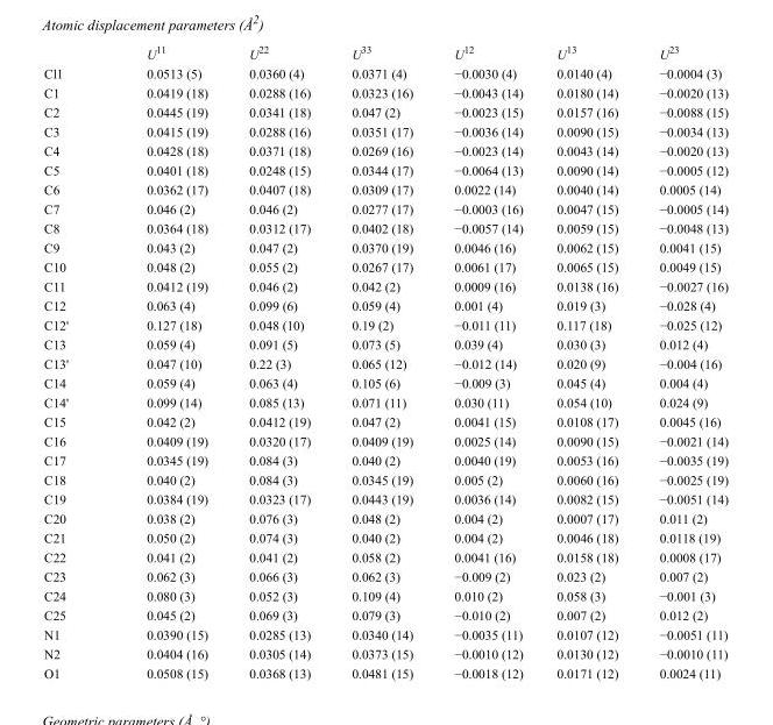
<table><thead><tr><td></td><td>U<sup>11</sup></td><td>U<sup>22</sup></td><td>U<sup>33</sup></td><td>U<sup>12</sup></td><td>U<sup>13</sup></td><td>U<sup>23</sup></td></tr></thead><tbody><tr><td>Cl1</td><td>0.0513 (5)</td><td>0.0360 (4)</td><td>0.0371 (4)</td><td>−0.0030 (4)</td><td>0.0140 (4)</td><td>−0.0004 (3)</td></tr><tr><td>C1</td><td>0.0419 (18)</td><td>0.0288 (16)</td><td>0.0323 (16)</td><td>−0.0043 (14)</td><td>0.0180 (14)</td><td>−0.0020 (13)</td></tr><tr><td>C2</td><td>0.0445 (19)</td><td>0.0341 (18)</td><td>0.047 (2)</td><td>−0.0023 (15)</td><td>0.0157 (16)</td><td>−0.0088 (15)</td></tr><tr><td>C3</td><td>0.0415 (19)</td><td>0.0288 (16)</td><td>0.0351 (17)</td><td>−0.0036 (14)</td><td>0.0090 (15)</td><td>−0.0034 (13)</td></tr><tr><td>C4</td><td>0.0428 (18)</td><td>0.0371 (18)</td><td>0.0269 (16)</td><td>−0.0023 (14)</td><td>0.0043 (14)</td><td>−0.0020 (13)</td></tr><tr><td>C5</td><td>0.0401 (18)</td><td>0.0248 (15)</td><td>0.0344 (17)</td><td>−0.0064 (13)</td><td>0.0090 (14)</td><td>−0.0005 (12)</td></tr><tr><td>C6</td><td>0.0362 (17)</td><td>0.0407 (18)</td><td>0.0309 (17)</td><td>0.0022 (14)</td><td>0.0040 (14)</td><td>0.0005 (14)</td></tr><tr><td>C7</td><td>0.046 (2)</td><td>0.046 (2)</td><td>0.0277 (17)</td><td>−0.0003 (16)</td><td>0.0047 (15)</td><td>−0.0005 (14)</td></tr><tr><td>C8</td><td>0.0364 (18)</td><td>0.0312 (17)</td><td>0.0402 (18)</td><td>−0.0057 (14)</td><td>0.0059 (15)</td><td>−0.0048 (13)</td></tr><tr><td>C9</td><td>0.043 (2)</td><td>0.047 (2)</td><td>0.0370 (19)</td><td>0.0046 (16)</td><td>0.0062 (15)</td><td>0.0041 (15)</td></tr><tr><td>C10</td><td>0.048 (2)</td><td>0.055 (2)</td><td>0.0267 (17)</td><td>0.0061 (17)</td><td>0.0065 (15)</td><td>0.0049 (15)</td></tr><tr><td>C11</td><td>0.0412 (19)</td><td>0.046 (2)</td><td>0.042 (2)</td><td>0.0009 (16)</td><td>0.0138 (16)</td><td>−0.0027 (16)</td></tr><tr><td>C12</td><td>0.063 (4)</td><td>0.099 (6)</td><td>0.059 (4)</td><td>0.001 (4)</td><td>0.019 (3)</td><td>−0.028 (4)</td></tr><tr><td>C12&#x27;</td><td>0.127 (18)</td><td>0.048 (10)</td><td>0.19 (2)</td><td>−0.011 (11)</td><td>0.117 (18)</td><td>−0.025 (12)</td></tr><tr><td>C13</td><td>0.059 (4)</td><td>0.091 (5)</td><td>0.073 (5)</td><td>0.039 (4)</td><td>0.030 (3)</td><td>0.012 (4)</td></tr><tr><td>C13&#x27;</td><td>0.047 (10)</td><td>0.22 (3)</td><td>0.065 (12)</td><td>−0.012 (14)</td><td>0.020 (9)</td><td>−0.004 (16)</td></tr><tr><td>C14</td><td>0.059 (4)</td><td>0.063 (4)</td><td>0.105 (6)</td><td>−0.009 (3)</td><td>0.045 (4)</td><td>0.004 (4)</td></tr><tr><td>C14&#x27;</td><td>0.099 (14)</td><td>0.085 (13)</td><td>0.071 (11)</td><td>0.030 (11)</td><td>0.054 (10)</td><td>0.024 (9)</td></tr><tr><td>C15</td><td>0.042 (2)</td><td>0.0412 (19)</td><td>0.047 (2)</td><td>0.0041 (15)</td><td>0.0108 (17)</td><td>0.0045 (16)</td></tr><tr><td>C16</td><td>0.0409 (19)</td><td>0.0320 (17)</td><td>0.0409 (19)</td><td>0.0025 (14)</td><td>0.0090 (15)</td><td>−0.0021 (14)</td></tr><tr><td>C17</td><td>0.0345 (19)</td><td>0.084 (3)</td><td>0.040 (2)</td><td>0.0040 (19)</td><td>0.0053 (16)</td><td>−0.0035 (19)</td></tr><tr><td>C18</td><td>0.040 (2)</td><td>0.084 (3)</td><td>0.0345 (19)</td><td>0.005 (2)</td><td>0.0060 (16)</td><td>−0.0025 (19)</td></tr><tr><td>C19</td><td>0.0384 (19)</td><td>0.0323 (17)</td><td>0.0443 (19)</td><td>0.0036 (14)</td><td>0.0082 (15)</td><td>−0.0051 (14)</td></tr><tr><td>C20</td><td>0.038 (2)</td><td>0.076 (3)</td><td>0.048 (2)</td><td>0.004 (2)</td><td>0.0007 (17)</td><td>0.011 (2)</td></tr><tr><td>C21</td><td>0.050 (2)</td><td>0.074 (3)</td><td>0.040 (2)</td><td>0.004 (2)</td><td>0.0046 (18)</td><td>0.0118 (19)</td></tr><tr><td>C22</td><td>0.041 (2)</td><td>0.041 (2)</td><td>0.058 (2)</td><td>0.0041 (16)</td><td>0.0158 (18)</td><td>0.0008 (17)</td></tr><tr><td>C23</td><td>0.062 (3)</td><td>0.066 (3)</td><td>0.062 (3)</td><td>−0.009 (2)</td><td>0.023 (2)</td><td>0.007 (2)</td></tr><tr><td>C24</td><td>0.080 (3)</td><td>0.052 (3)</td><td>0.109 (4)</td><td>0.010 (2)</td><td>0.058 (3)</td><td>−0.001 (3)</td></tr><tr><td>C25</td><td>0.045 (2)</td><td>0.069 (3)</td><td>0.079 (3)</td><td>−0.010 (2)</td><td>0.007 (2)</td><td>0.012 (2)</td></tr><tr><td>N1</td><td>0.0390 (15)</td><td>0.0285 (13)</td><td>0.0340 (14)</td><td>−0.0035 (11)</td><td>0.0107 (12)</td><td>−0.0051 (11)</td></tr><tr><td>N2</td><td>0.0404 (16)</td><td>0.0305 (14)</td><td>0.0373 (15)</td><td>−0.0010 (12)</td><td>0.0130 (12)</td><td>−0.0010 (11)</td></tr><tr><td>O1</td><td>0.0508 (15)</td><td>0.0368 (13)</td><td>0.0481 (15)</td><td>−0.0018 (12)</td><td>0.0171 (12)</td><td>0.0024 (11)</td></tr></tbody></table>